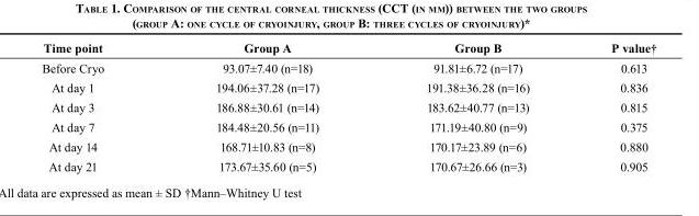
<table><thead><tr><td>Time point</td><td>Group A</td><td>Group B</td><td>P value†</td></tr></thead><tbody><tr><td>Before Cryo</td><td>93.07±7.40 (n=18)</td><td>91.81±6.72 (n=17)</td><td>0.613</td></tr><tr><td>At day 1</td><td>194.06±37.28 (n=17)</td><td>191.38±36.28 (n=16)</td><td>0.836</td></tr><tr><td>At day 3</td><td>186.88±30.61 (n=14)</td><td>183.62±40.77 (n=13)</td><td>0.815</td></tr><tr><td>At day 7</td><td>184.48±20.56 (n=11)</td><td>171.19±40.80 (n=9)</td><td>0.375</td></tr><tr><td>At day 14</td><td>168.71±10.83 (n=8)</td><td>170.17±23.89 (n=6)</td><td>0.880</td></tr><tr><td>At day 21</td><td>173.67±35.60 (n=5)</td><td>170.67±26.66 (n=3)</td><td>0.905</td></tr></tbody></table>